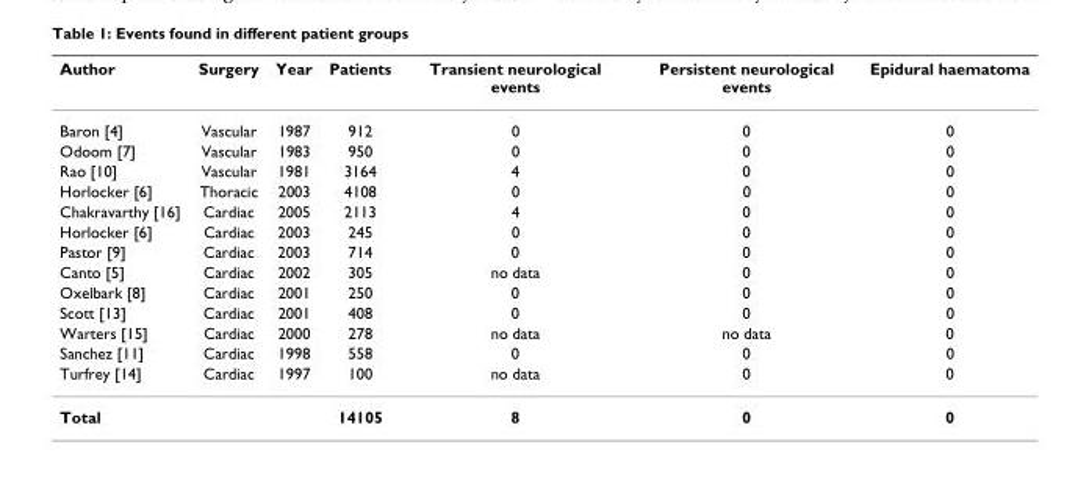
<table><thead><tr><td>Author</td><td>Surgery</td><td>Year</td><td>Patients</td><td>Transient neurological events</td><td>Persistent neurological events</td><td>Epidural haematoma</td></tr></thead><tbody><tr><td>Baron [4]</td><td>Vascular</td><td>1987</td><td>912</td><td>0</td><td>0</td><td>0</td></tr><tr><td>Odoom [7]</td><td>Vascular</td><td>1983</td><td>950</td><td>0</td><td>0</td><td>0</td></tr><tr><td>Rao [10]</td><td>Vascular</td><td>1981</td><td>3164</td><td>4</td><td>0</td><td>0</td></tr><tr><td>Horlocker [6]</td><td>Thoracic</td><td>2003</td><td>4108</td><td>0</td><td>0</td><td>0</td></tr><tr><td>Chakravarthy [16]</td><td>Cardiac</td><td>2005</td><td>2113</td><td>4</td><td>0</td><td>0</td></tr><tr><td>Horlocker [6]</td><td>Cardiac</td><td>2003</td><td>245</td><td>0</td><td>0</td><td>0</td></tr><tr><td>Pastor [9]</td><td>Cardiac</td><td>2003</td><td>714</td><td>0</td><td>0</td><td>0</td></tr><tr><td>Canto [5]</td><td>Cardiac</td><td>2002</td><td>305</td><td>no data</td><td>0</td><td>0</td></tr><tr><td>Oxelbark [8]</td><td>Cardiac</td><td>2001</td><td>250</td><td>0</td><td>0</td><td>0</td></tr><tr><td>Scott [13]</td><td>Cardiac</td><td>2001</td><td>408</td><td>0</td><td>0</td><td>0</td></tr><tr><td>Warters [15]</td><td>Cardiac</td><td>2000</td><td>278</td><td>no data</td><td>no data</td><td>0</td></tr><tr><td>Sanchez [11]</td><td>Cardiac</td><td>1998</td><td>558</td><td>0</td><td>0</td><td>0</td></tr><tr><td>Turfrey [14]</td><td>Cardiac</td><td>1997</td><td>100</td><td>no data</td><td>0</td><td>0</td></tr><tr><td>Total</td><td></td><td></td><td>14105</td><td>8</td><td>0</td><td>0</td></tr></tbody></table>